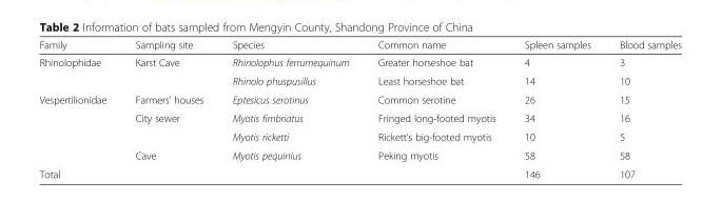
<table><thead><tr><td>Family</td><td>Sampling site</td><td>Species</td><td>Common name</td><td>Spleen samples</td><td>Blood samples</td></tr></thead><tbody><tr><td rowspan="2">Rhinolophidae</td><td rowspan="2">Karst Cave</td><td>Rhinolophus ferrumequinum</td><td>Greater horseshoe bat</td><td>4</td><td>3</td></tr><tr><td>Rhinolo phuspusillus</td><td>Least horseshoe bat</td><td>14</td><td>10</td></tr><tr><td rowspan="4">Vespertilionidae</td><td>Farmers’ houses</td><td>Eptesicus serotinus</td><td>Common serotine</td><td>26</td><td>15</td></tr><tr><td rowspan="2">City sewer</td><td>Myotis fimbriatus</td><td>Fringed long-footed myotis</td><td>34</td><td>16</td></tr><tr><td>Myotis ricketti</td><td>Rickett’s big-footed myotis</td><td>10</td><td>5</td></tr><tr><td>Cave</td><td>Myotis pequinius</td><td>Peking myotis</td><td>58</td><td>58</td></tr><tr><td>Total</td><td></td><td></td><td></td><td>146</td><td>107</td></tr></tbody></table>